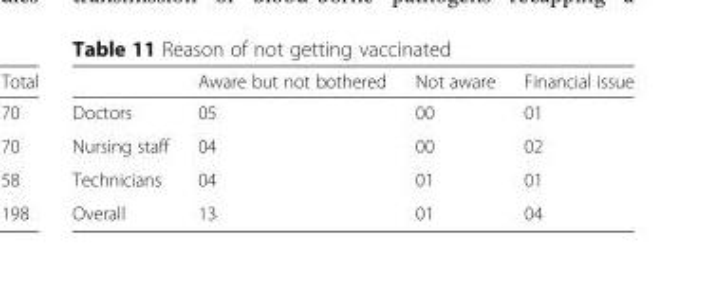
<table><thead><tr><td></td><td>Aware but not bothered</td><td>Not aware</td><td>Financial issue</td></tr></thead><tbody><tr><td>Doctors</td><td>05</td><td>00</td><td>01</td></tr><tr><td>Nursing staff</td><td>04</td><td>00</td><td>02</td></tr><tr><td>Technicians</td><td>04</td><td>01</td><td>01</td></tr><tr><td>Overall</td><td>13</td><td>01</td><td>04</td></tr></tbody></table>